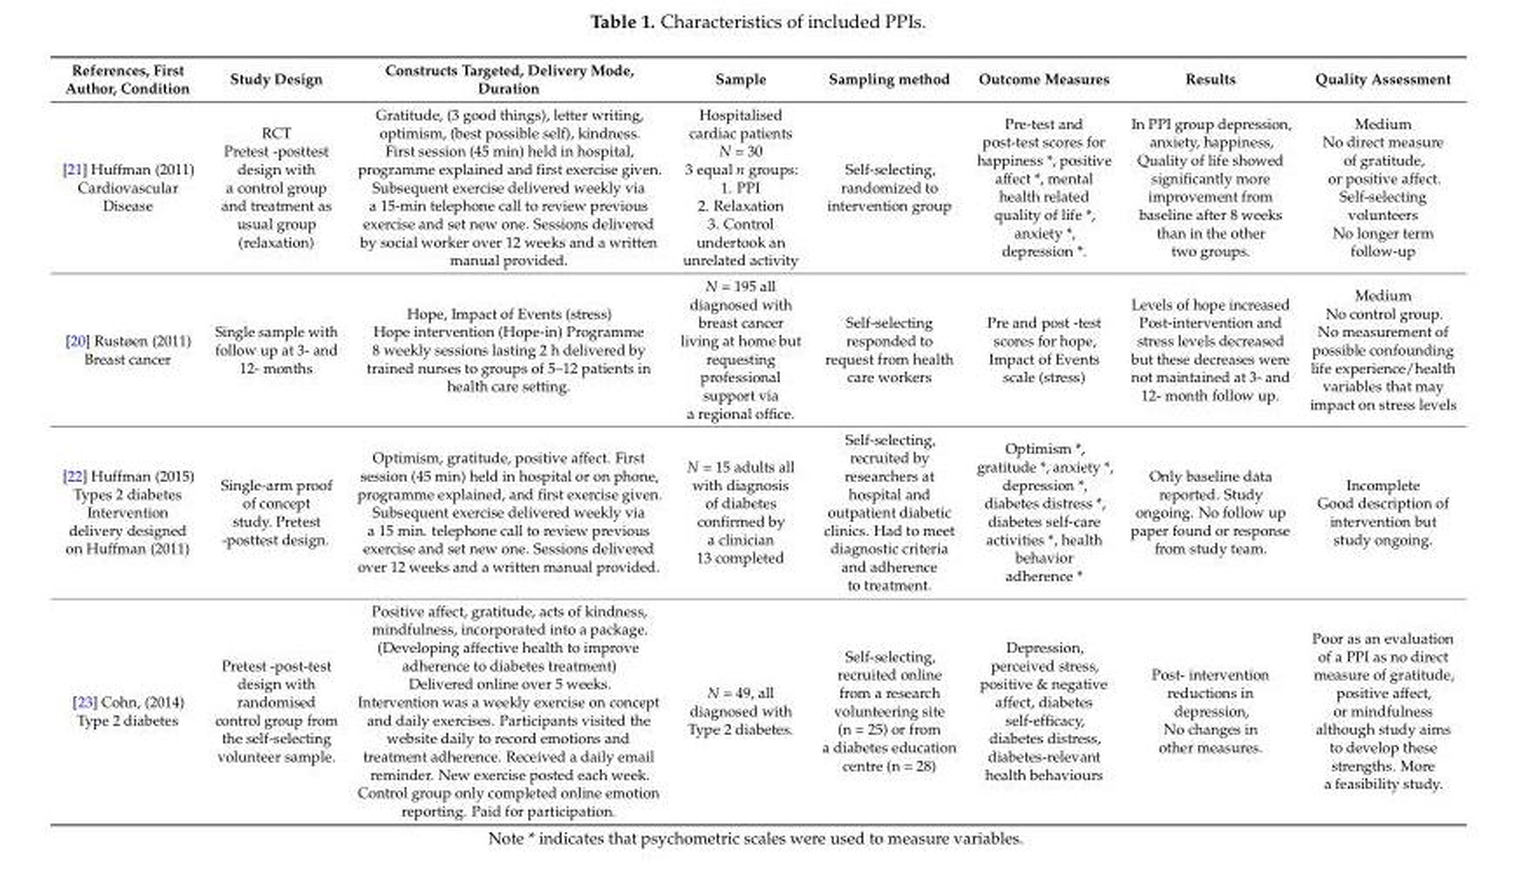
<table><thead><tr><td>References, First Author, Condition</td><td>Study Design</td><td>Constructs Targeted, Delivery Mode, Duration</td><td>Sample</td><td>Sampling method</td><td>Outcome Measures</td><td>Results</td><td>Quality Assessment</td></tr></thead><tbody><tr><td>[21] Huffman (2011) Cardiovascular Disease</td><td>RCT Pretest -posttest design with a control group and treatment as usual group (relaxation)</td><td>Gratitude, (3 good things), letter writing, optimism, (best possible self), kindness. First session (45 min) held in hospital, programme explained and first exercise given. Subsequent exercise delivered weekly via a 15-min telephone call to review previous exercise and set new one. Sessions delivered by social worker over 12 weeks and a written manual provided.</td><td>Hospitalised cardiac patients N = 30 3 equal n groups: 1. PPI 2. Relaxation 3. Control undertook an unrelated activity</td><td>Self-selecting, randomized to intervention group</td><td>Pre-test and post-test scores for happiness *, positive affect *, mental health related quality of life *, anxiety *, depression *.</td><td>In PPI group depression, anxiety, happiness, Quality of life showed significantly more improvement from baseline after 8 weeks than in the other two groups.</td><td>Medium No direct measure of gratitude, or positive affect. Self-selecting volunteers No longer term follow-up</td></tr><tr><td>[20] Rustøen (2011) Breast cancer</td><td>Single sample with follow up at 3- and 12- months</td><td>Hope, Impact of Events (stress) Hope intervention (Hope-in) Programme 8 weekly sessions lasting 2 h delivered by trained nurses to groups of 5–12 patients in health care setting.</td><td>N = 195 all diagnosed with breast cancer living at home but requesting professional support via a regional office.</td><td>Self-selecting responded to request from health care workers</td><td>Pre and post -test scores for hope, Impact of Events scale (stress)</td><td>Levels of hope increased Post-intervention and stress levels decreased but these decreases were not maintained at 3- and 12- month follow up.</td><td>Medium No control group. No measurement of possible confounding life experience/health variables that may impact on stress levels</td></tr><tr><td>[22] Huffman (2015) Types 2 diabetes Intervention delivery designed on Huffman (2011)</td><td>Single-arm proof of concept study. Pretest -posttest design.</td><td>Optimism, gratitude, positive affect. First session (45 min) held in hospital or on phone, programme explained, and first exercise given. Subsequent exercise delivered weekly via a 15 min. telephone call to review previous exercise and set new one. Sessions delivered over 12 weeks and a written manual provided.</td><td>N = 15 adults all with diagnosis of diabetes confirmed by a clinician 13 completed</td><td>Self-selecting, recruited by researchers at hospital and outpatient diabetic clinics. Had to meet diagnostic criteria and adherence to treatment.</td><td>Optimism *, gratitude *, anxiety *, depression *, diabetes distress *, diabetes self-care activities *, health behavior adherence *</td><td>Only baseline data reported. Study ongoing. No follow up paper found or response from study team.</td><td>Incomplete Good description of intervention but study ongoing.</td></tr><tr><td>[23] Cohn, (2014) Type 2 diabetes</td><td>Pretest -post-test design with randomised control group from the self-selecting volunteer sample.</td><td>Positive affect, gratitude, acts of kindness, mindfulness, incorporated into a package. (Developing affective health to improve adherence to diabetes treatment) Delivered online over 5 weeks. Intervention was a weekly exercise on concept and daily exercises. Participants visited the website daily to record emotions and treatment adherence. Received a daily email reminder. New exercise posted each week. Control group only completed online emotion reporting. Paid for participation.</td><td>N = 49, all diagnosed with Type 2 diabetes.</td><td>Self-selecting, recruited online from a research volunteering site (n = 25) or from a diabetes education centre (n = 28)</td><td>Depression, perceived stress, positive &amp; negative affect, diabetes self-efficacy, diabetes distress, diabetes-relevant health behaviours</td><td>Post- intervention reductions in depression, No changes in other measures.</td><td>Poor as an evaluation of a PPI as no direct measure of gratitude, positive affect, or mindfulness although study aims to develop these strengths. More a feasibility study.</td></tr></tbody></table>